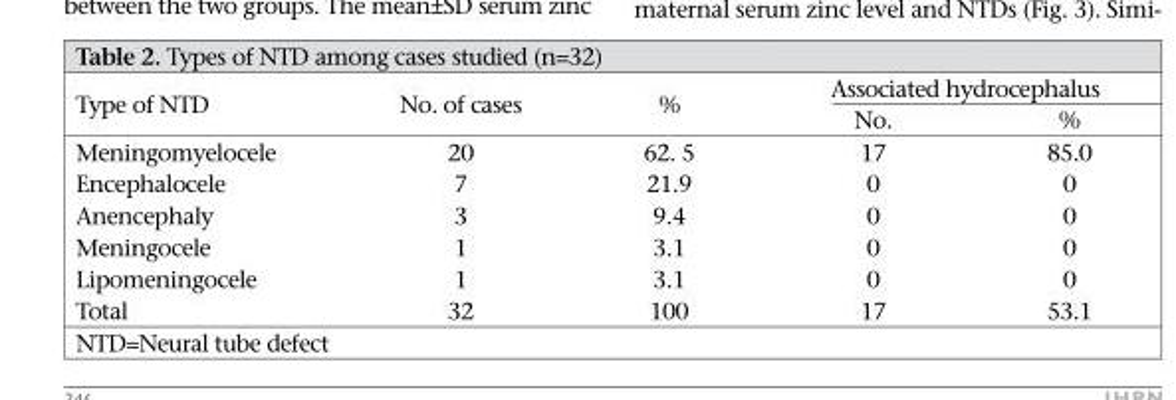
<table><thead><tr><td rowspan="2">Type of NTD</td><td rowspan="2">No. of cases</td><td rowspan="2">%</td><td colspan="2">Associated hydrocephalus</td></tr><tr><td>No.</td><td>%</td></tr></thead><tbody><tr><td>Meningomyelocele</td><td>20</td><td>62. 5</td><td>17</td><td>85.0</td></tr><tr><td>Encephalocele</td><td>7</td><td>21.9</td><td>0</td><td>0</td></tr><tr><td>Anencephaly</td><td>3</td><td>9.4</td><td>0</td><td>0</td></tr><tr><td>Meningocele</td><td>1</td><td>3.1</td><td>0</td><td>0</td></tr><tr><td>Lipomeningocele</td><td>1</td><td>3.1</td><td>0</td><td>0</td></tr><tr><td>Total</td><td>32</td><td>100</td><td>17</td><td>53.1</td></tr></tbody></table>